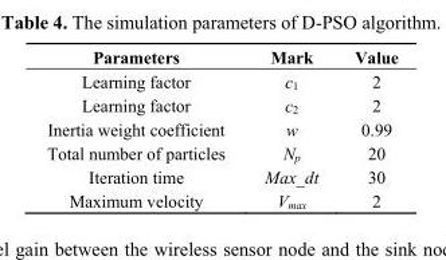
<table><thead><tr><td>Parameters</td><td>Mark</td><td>Value</td></tr></thead><tbody><tr><td>Learning factor</td><td>c<sub>1</sub></td><td>2</td></tr><tr><td>Learning factor</td><td>c<sub>2</sub></td><td>2</td></tr><tr><td>Inertia weight coefficient</td><td>w</td><td>0.99</td></tr><tr><td>Total number of particles</td><td>N<sub>p</sub></td><td>20</td></tr><tr><td>Iteration time</td><td>Max_dt</td><td>30</td></tr><tr><td>Maximum velocity</td><td>V<sub>max</sub></td><td>2</td></tr></tbody></table>